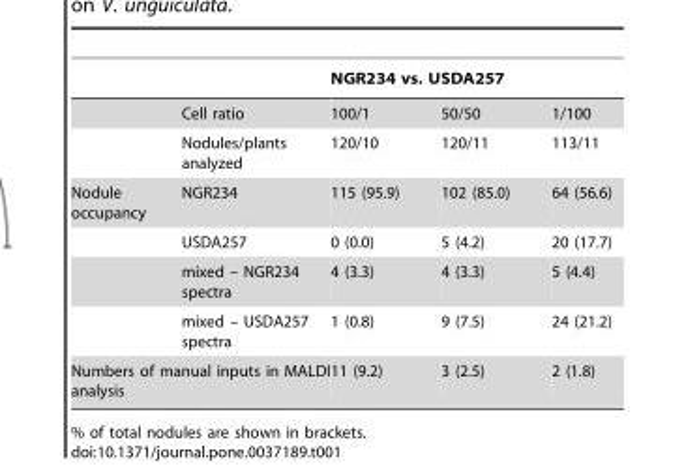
<table><thead><tr><td rowspan="2"></td><td rowspan="2">Cell ratio</td><td colspan="3">NGR234 vs. USDA257</td></tr><tr><td>100/1</td><td>50/50</td><td>1/100</td></tr></thead><tbody><tr><td></td><td>Nodules/plants analyzed</td><td>120/10</td><td>120/11</td><td>113/11</td></tr><tr><td rowspan="4">Nodule occupancy</td><td>NGR234</td><td>115 (95.9)</td><td>102 (85.0)</td><td>64 (56.6)</td></tr><tr><td>USDA257</td><td>0 (0.0)</td><td>5 (4.2)</td><td>20 (17.7)</td></tr><tr><td>mixed – NGR234 spectra</td><td>4 (3.3)</td><td>4 (3.3)</td><td>5 (4.4)</td></tr><tr><td>mixed – USDA257 spectra</td><td>1 (0.8)</td><td>9 (7.5)</td><td>24 (21.2)</td></tr><tr><td colspan="2">Numbers of manual inputs in MALDI analysis</td><td>11 (9.2)</td><td>3 (2.5)</td><td>2 (1.8)</td></tr></tbody></table>